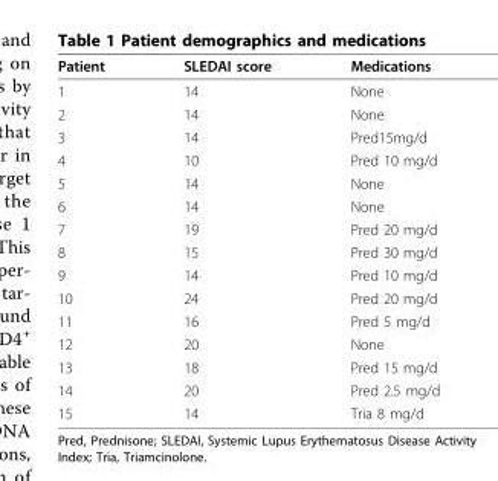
<table><thead><tr><td>Patient</td><td>SLEDAI score</td><td>Medications</td></tr></thead><tbody><tr><td>1</td><td>14</td><td>None</td></tr><tr><td>2</td><td>14</td><td>None</td></tr><tr><td>3</td><td>14</td><td>Pred15mg/d</td></tr><tr><td>4</td><td>10</td><td>Pred 10 mg/d</td></tr><tr><td>5</td><td>14</td><td>None</td></tr><tr><td>6</td><td>14</td><td>None</td></tr><tr><td>7</td><td>19</td><td>Pred 20 mg/d</td></tr><tr><td>8</td><td>15</td><td>Pred 30 mg/d</td></tr><tr><td>9</td><td>14</td><td>Pred 10 mg/d</td></tr><tr><td>10</td><td>24</td><td>Pred 20 mg/d</td></tr><tr><td>11</td><td>16</td><td>Pred 5 mg/d</td></tr><tr><td>12</td><td>20</td><td>None</td></tr><tr><td>13</td><td>18</td><td>Pred 15 mg/d</td></tr><tr><td>14</td><td>20</td><td>Pred 2.5 mg/d</td></tr><tr><td>15</td><td>14</td><td>Tria 8 mg/d</td></tr></tbody></table>